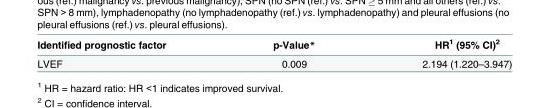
<table><thead><tr><td>Identified prognostic factor</td><td>p-Value*</td><td>HR<sup>1</sup> (95% CI)<sup>2</sup></td></tr></thead><tbody><tr><td>LVEF</td><td>0.009</td><td>2.194 (1.220–3.947)</td></tr></tbody></table>